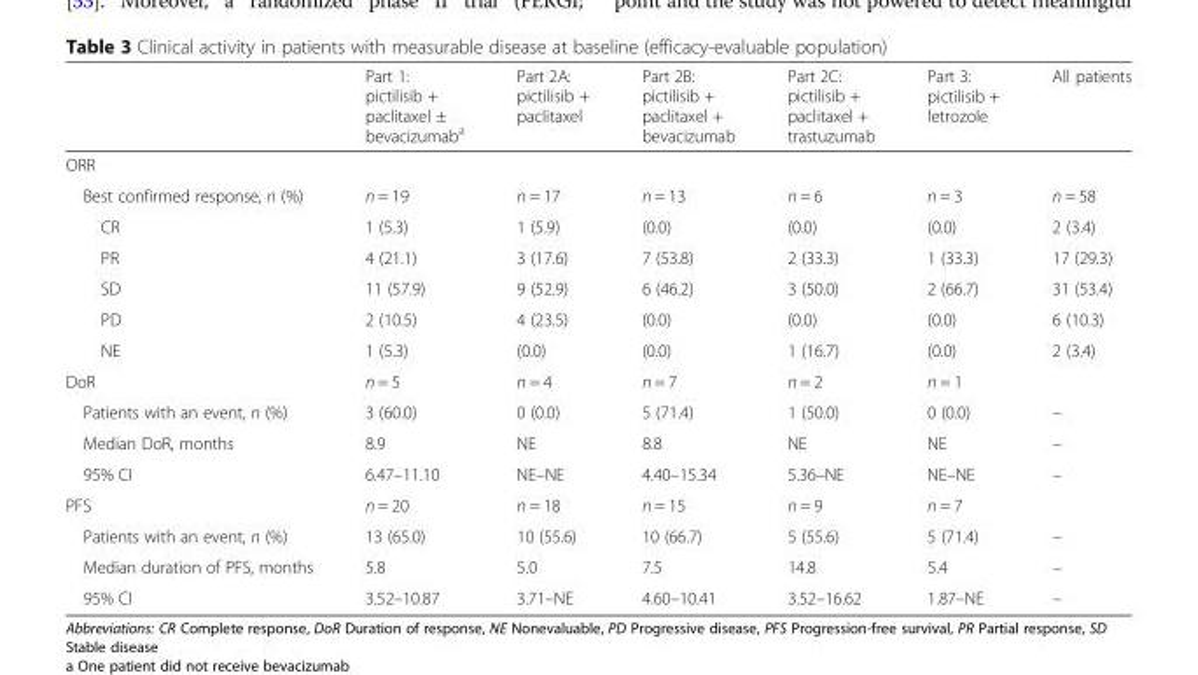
<table><thead><tr><td></td><td>Part 1: pictilisib + paclitaxel ± bevacizumab<sup>a</sup></td><td>Part 2A: pictilisib + paclitaxel</td><td>Part 2B: pictilisib + paclitaxel + bevacizumab</td><td>Part 2C: pictilisib + paclitaxel + trastuzumab</td><td>Part 3: pictilisib + letrozole</td><td>All patients</td></tr></thead><tbody><tr><td colspan="7">ORR</td></tr><tr><td>Best confirmed response, n (%)</td><td>n = 19</td><td>n = 17</td><td>n = 13</td><td>n = 6</td><td>n = 3</td><td>n = 58</td></tr><tr><td>CR</td><td>1 (5.3)</td><td>1 (5.9)</td><td>(0.0)</td><td>(0.0)</td><td>(0.0)</td><td>2 (3.4)</td></tr><tr><td>PR</td><td>4 (21.1)</td><td>3 (17.6)</td><td>7 (53.8)</td><td>2 (33.3)</td><td>1 (33.3)</td><td>17 (29.3)</td></tr><tr><td>SD</td><td>11 (57.9)</td><td>9 (52.9)</td><td>6 (46.2)</td><td>3 (50.0)</td><td>2 (66.7)</td><td>31 (53.4)</td></tr><tr><td>PD</td><td>2 (10.5)</td><td>4 (23.5)</td><td>(0.0)</td><td>(0.0)</td><td>(0.0)</td><td>6 (10.3)</td></tr><tr><td>NE</td><td>1 (5.3)</td><td>(0.0)</td><td>(0.0)</td><td>1 (16.7)</td><td>(0.0)</td><td>2 (3.4)</td></tr><tr><td>DoR</td><td>n = 5</td><td>n = 4</td><td>n = 7</td><td>n = 2</td><td>n = 1</td><td></td></tr><tr><td>Patients with an event, n (%)</td><td>3 (60.0)</td><td>0 (0.0)</td><td>5 (71.4)</td><td>1 (50.0)</td><td>0 (0.0)</td><td>–</td></tr><tr><td>Median DoR, months</td><td>8.9</td><td>NE</td><td>8.8</td><td>NE</td><td>NE</td><td>–</td></tr><tr><td>95% CI</td><td>6.47–11.10</td><td>NE–NE</td><td>4.40–15.34</td><td>5.36–NE</td><td>NE–NE</td><td>–</td></tr><tr><td>PFS</td><td>n = 20</td><td>n = 18</td><td>n = 15</td><td>n = 9</td><td>n = 7</td><td></td></tr><tr><td>Patients with an event, n (%)</td><td>13 (65.0)</td><td>10 (55.6)</td><td>10 (66.7)</td><td>5 (55.6)</td><td>5 (71.4)</td><td>–</td></tr><tr><td>Median duration of PFS, months</td><td>5.8</td><td>5.0</td><td>7.5</td><td>14.8</td><td>5.4</td><td>–</td></tr><tr><td>95% CI</td><td>3.52–10.87</td><td>3.71–NE</td><td>4.60–10.41</td><td>3.52–16.62</td><td>1.87–NE</td><td>–</td></tr></tbody></table>